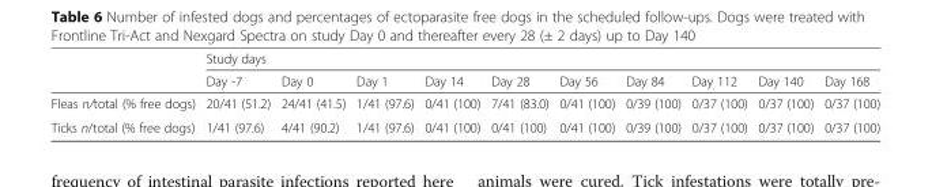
<table><thead><tr><td rowspan="2"></td><td colspan="10">Study days</td></tr><tr><td>Day -7</td><td>Day 0</td><td>Day 1</td><td>Day 14</td><td>Day 28</td><td>Day 56</td><td>Day 84</td><td>Day 112</td><td>Day 140</td><td>Day 168</td></tr></thead><tbody><tr><td>Fleas n/total (% free dogs)</td><td>20/41 (51.2)</td><td>24/41 (41.5)</td><td>1/41 (97.6)</td><td>0/41 (100)</td><td>7/41 (83.0)</td><td>0/41 (100)</td><td>0/39 (100)</td><td>0/37 (100)</td><td>0/37 (100)</td><td>0/37 (100)</td></tr><tr><td>Ticks n/total (% free dogs)</td><td>1/41 (97.6)</td><td>4/41 (90.2)</td><td>1/41 (97.6)</td><td>0/41 (100)</td><td>0/41 (100)</td><td>0/41 (100)</td><td>0/39 (100)</td><td>0/37 (100)</td><td>0/37 (100)</td><td>0/37 (100)</td></tr></tbody></table>